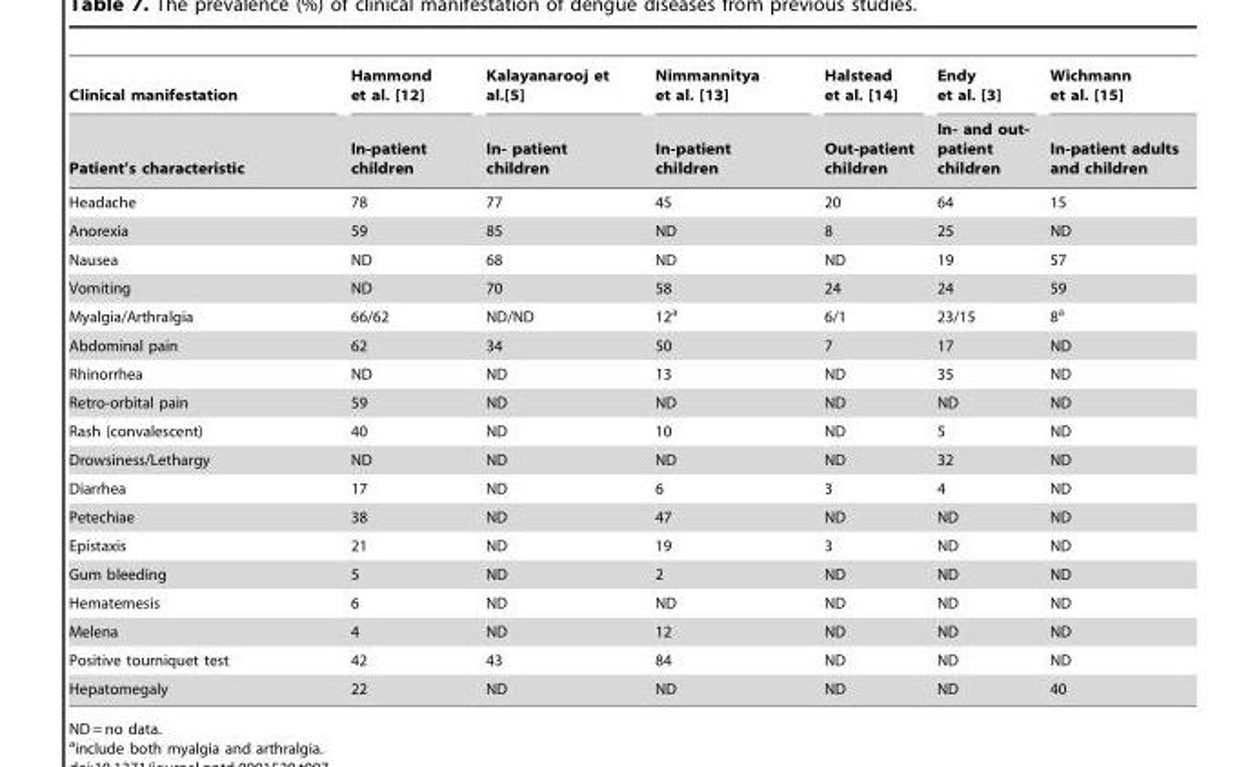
<table><thead><tr><td rowspan="2">Clinical manifestation Patient’s characteristic</td><td rowspan="2">Hammond et al. [12] In-patient children</td><td rowspan="2">Kalayanarooj et al.[5] In- patient children</td><td rowspan="2">Nimmannitya et al. [13] In-patient children</td><td rowspan="2">Halstead et al. [14] Out-patient children</td><td rowspan="2">Endy et al. [3] In- and out- patient children</td><td rowspan="2">Wichmann et al. [15] In-patient adults and children</td></tr><tr></tr></thead><tbody><tr><td>Headache</td><td>78</td><td>77</td><td>45</td><td>20</td><td>64</td><td>15</td></tr><tr><td>Anorexia</td><td>59</td><td>85</td><td>ND</td><td>8</td><td>25</td><td>ND</td></tr><tr><td>Nausea</td><td>ND</td><td>68</td><td>ND</td><td>ND</td><td>19</td><td>57</td></tr><tr><td>Vomiting</td><td>ND</td><td>70</td><td>58</td><td>24</td><td>24</td><td>59</td></tr><tr><td>Myalgia/Arthralgia</td><td>66/62</td><td>ND/ND</td><td>12<sup>a</sup></td><td>6/1</td><td>23/15</td><td>8<sup>a</sup></td></tr><tr><td>Abdominal pain</td><td>62</td><td>34</td><td>50</td><td>7</td><td>17</td><td>ND</td></tr><tr><td>Rhinorrhea</td><td>ND</td><td>ND</td><td>13</td><td>ND</td><td>35</td><td>ND</td></tr><tr><td>Retro-orbital pain</td><td>59</td><td>ND</td><td>ND</td><td>ND</td><td>ND</td><td>ND</td></tr><tr><td>Rash (convalescent)</td><td>40</td><td>ND</td><td>10</td><td>ND</td><td>5</td><td>ND</td></tr><tr><td>Drowsiness/Lethargy</td><td>ND</td><td>ND</td><td>ND</td><td>ND</td><td>32</td><td>ND</td></tr><tr><td>Diarrhea</td><td>17</td><td>ND</td><td>6</td><td>3</td><td>4</td><td>ND</td></tr><tr><td>Petechiae</td><td>38</td><td>ND</td><td>47</td><td>ND</td><td>ND</td><td>ND</td></tr><tr><td>Epistaxis</td><td>21</td><td>ND</td><td>19</td><td>3</td><td>ND</td><td>ND</td></tr><tr><td>Gum bleeding</td><td>5</td><td>ND</td><td>2</td><td>ND</td><td>ND</td><td>ND</td></tr><tr><td>Hematemesis</td><td>6</td><td>ND</td><td>ND</td><td>ND</td><td>ND</td><td>ND</td></tr><tr><td>Melena</td><td>4</td><td>ND</td><td>12</td><td>ND</td><td>ND</td><td>ND</td></tr><tr><td>Positive tourniquet test</td><td>42</td><td>43</td><td>84</td><td>ND</td><td>ND</td><td>ND</td></tr><tr><td>Hepatomegaly</td><td>22</td><td>ND</td><td>ND</td><td>ND</td><td>ND</td><td>40</td></tr></tbody></table>